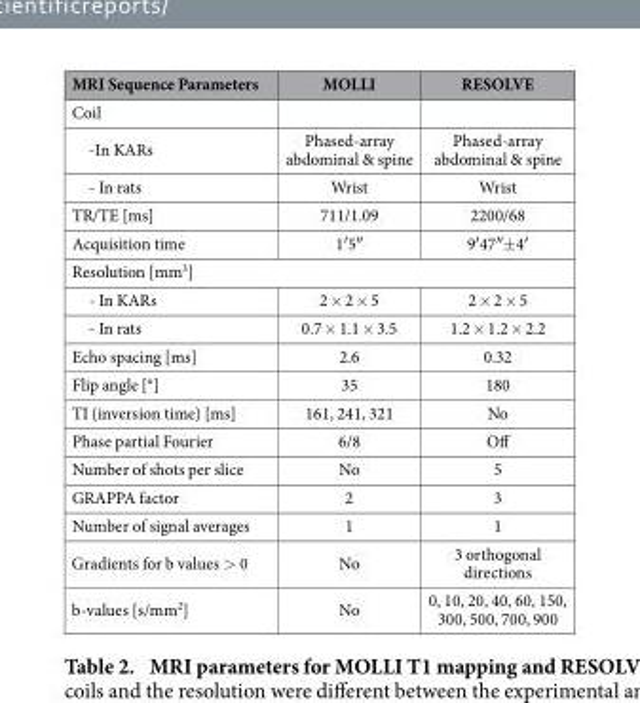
<table><thead><tr><td>MRI Sequence Parameters</td><td>MOLLI</td><td>RESOLVE</td></tr></thead><tbody><tr><td colspan="3">Coil</td></tr><tr><td>-In KARs</td><td>Phased-array abdominal &amp; spine</td><td>Phased-array abdominal &amp; spine</td></tr><tr><td>- In rats</td><td>Wrist</td><td>Wrist</td></tr><tr><td>TR/TE [ms]</td><td>711/1.09</td><td>2200/68</td></tr><tr><td>Acquisition time</td><td>1′ 5″</td><td>9′ 47″ ± 4′</td></tr><tr><td colspan="3">Resolution [mm<sup>3</sup>]</td></tr><tr><td>- In KARs</td><td>2 × 2 × 5</td><td>2 × 2 × 5</td></tr><tr><td>- In rats</td><td>0.7 × 1.1 × 3.5</td><td>1.2 × 1.2 × 2.2</td></tr><tr><td>Echo spacing [ms]</td><td>2.6</td><td>0.32</td></tr><tr><td>Flip angle [°]</td><td>35</td><td>180</td></tr><tr><td>TI (inversion time) [ms]</td><td>161, 241, 321</td><td>No</td></tr><tr><td>Phase partial Fourier</td><td>6/8</td><td>Off</td></tr><tr><td>Number of shots per slice</td><td>No</td><td>5</td></tr><tr><td>GRAPPA factor</td><td>2</td><td>3</td></tr><tr><td>Number of signal averages</td><td>1</td><td>1</td></tr><tr><td>Gradients for b values &gt; 0</td><td>No</td><td>3 orthogonal directions</td></tr><tr><td>b-values [s/mm<sup>2</sup>]</td><td>No</td><td>0, 10, 20, 40, 60, 150, 300, 500, 700, 900</td></tr></tbody></table>